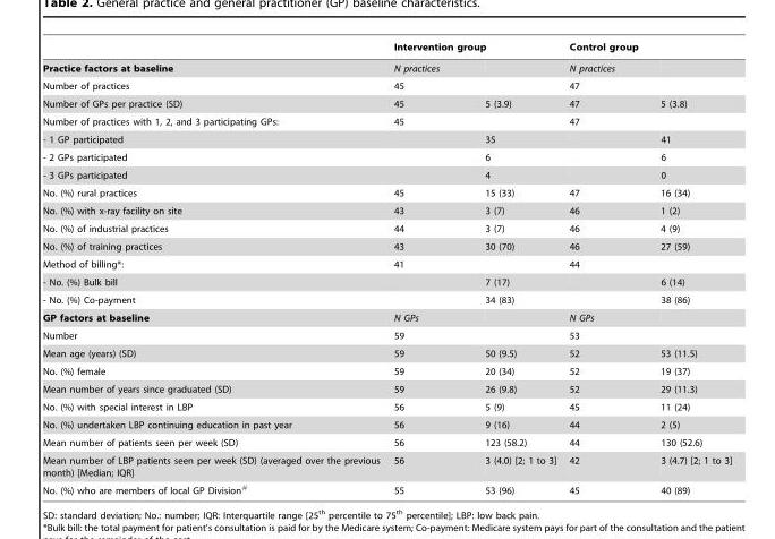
<table><thead><tr><td rowspan="2">Practice factors at baseline</td><td colspan="2">Intervention group</td><td colspan="2">Control group</td></tr><tr><td>N practices</td><td></td><td>N practices</td><td></td></tr></thead><tbody><tr><td>Number of practices</td><td>45</td><td></td><td>47</td><td></td></tr><tr><td>Number of GPs per practice (SD)</td><td>45</td><td>5 (3.9)</td><td>47</td><td>5 (3.8)</td></tr><tr><td>Number of practices with 1, 2, and 3 participating GPs:</td><td>45</td><td></td><td>47</td><td></td></tr><tr><td>- 1 GP participated</td><td></td><td>35</td><td></td><td>41</td></tr><tr><td>- 2 GPs participated</td><td></td><td>6</td><td></td><td>6</td></tr><tr><td>- 3 GPs participated</td><td></td><td>4</td><td></td><td>0</td></tr><tr><td>No. (%) rural practices</td><td>45</td><td>15 (33)</td><td>47</td><td>16 (34)</td></tr><tr><td>No. (%) with x-ray facility on site</td><td>43</td><td>3 (7)</td><td>46</td><td>1 (2)</td></tr><tr><td>No. (%) of industrial practices</td><td>44</td><td>3 (7)</td><td>46</td><td>4 (9)</td></tr><tr><td>No. (%) of training practices</td><td>43</td><td>30 (70)</td><td>46</td><td>27 (59)</td></tr><tr><td>Method of billing*:</td><td>41</td><td></td><td>44</td><td></td></tr><tr><td>- No. (%) Bulk bill</td><td></td><td>7 (17)</td><td></td><td>6 (14)</td></tr><tr><td>- No. (%) Co-payment</td><td></td><td>34 (83)</td><td></td><td>38 (86)</td></tr><tr><td>GP factors at baseline</td><td>N GPs</td><td></td><td>N GPs</td><td></td></tr><tr><td>Number</td><td>59</td><td></td><td>53</td><td></td></tr><tr><td>Mean age (years) (SD)</td><td>59</td><td>50 (9.5)</td><td>52</td><td>53 (11.5)</td></tr><tr><td>No. (%) female</td><td>59</td><td>20 (34)</td><td>52</td><td>19 (37)</td></tr><tr><td>Mean number of years since graduated (SD)</td><td>59</td><td>26 (9.8)</td><td>52</td><td>29 (11.3)</td></tr><tr><td>No. (%) with special interest in LBP</td><td>56</td><td>5 (9)</td><td>45</td><td>11 (24)</td></tr><tr><td>No. (%) undertaken LBP continuing education in past year</td><td>56</td><td>9 (16)</td><td>44</td><td>2 (5)</td></tr><tr><td>Mean number of patients seen per week (SD)</td><td>56</td><td>123 (58.2)</td><td>44</td><td>130 (52.6)</td></tr><tr><td>Mean number of LBP patients seen per week (SD) (averaged over the previous month) [Median; IQR]</td><td>56</td><td>3 (4.0) [2; 1 to 3]</td><td>42</td><td>3 (4.7) [2; 1 to 3]</td></tr><tr><td>No. (%) who are members of local GP Division#</td><td>55</td><td>53 (96)</td><td>45</td><td>40 (89)</td></tr></tbody></table>